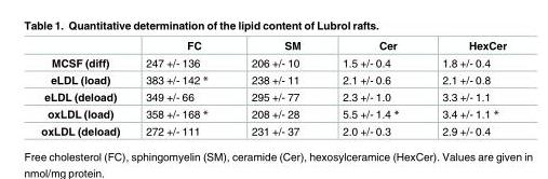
<table><thead><tr><td></td><td>FC</td><td>SM</td><td>Cer</td><td>HexCer</td></tr></thead><tbody><tr><td>MCSF (diff)</td><td>247 +/- 136</td><td>206 +/- 10</td><td>1.5 +/- 0.4</td><td>1.8 +/- 0.4</td></tr><tr><td>eLDL (load)</td><td>383 +/- 142 *</td><td>238 +/- 11</td><td>2.1 +/- 0.6</td><td>2.1 +/- 0.8</td></tr><tr><td>eLDL (deload)</td><td>349 +/- 66</td><td>295 +/- 77</td><td>2.3 +/- 1.0</td><td>3.3 +/- 1.1</td></tr><tr><td>oxLDL (load)</td><td>358 +/- 168 *</td><td>208 +/- 28</td><td>5.5 +/- 1.4 *</td><td>3.4 +/- 1.1 *</td></tr><tr><td>oxLDL (deload)</td><td>272 +/- 111</td><td>231 +/- 37</td><td>2.0 +/- 0.3</td><td>2.9 +/- 0.4</td></tr></tbody></table>